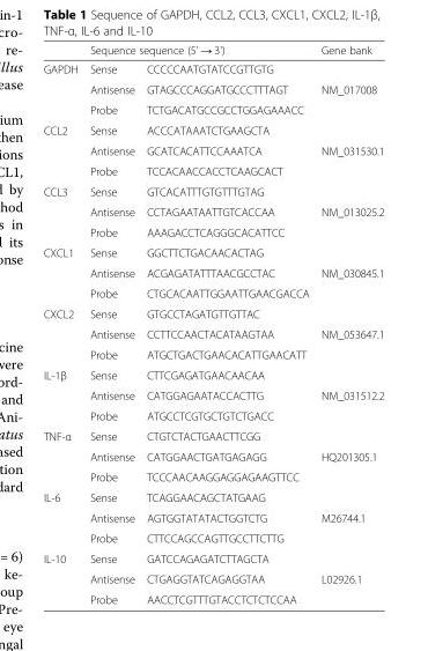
<table><thead><tr><td rowspan="2">GAPDH</td><td colspan="2">Sequence sequence (5&#x27; → 3&#x27;)</td><td rowspan="2">Gene bank</td></tr><tr><td>Sense</td><td>CCCCCAATGTATCCGTTGTG</td></tr></thead><tbody><tr><td></td><td>Antisense</td><td>GTAGCCCAGGATGCCCTTTAGT</td><td>NM_017008</td></tr><tr><td></td><td>Probe</td><td>TCTGACATGCCGCCTGGAGAAACC</td><td></td></tr><tr><td rowspan="3">CCL2</td><td>Sense</td><td>ACCCATAAATCTGAAGCTA</td><td></td></tr><tr><td>Antisense</td><td>GCATCACATTCCAAATCA</td><td>NM_031530.1</td></tr><tr><td>Probe</td><td>TCCACAACCACCTCAAGCACT</td><td></td></tr><tr><td rowspan="3">CCL3</td><td>Sense</td><td>GTCACATTTGTGTTTGTAG</td><td></td></tr><tr><td>Antisense</td><td>CCTAGAATAATTGTCACCAA</td><td>NM_013025.2</td></tr><tr><td>Probe</td><td>AAAGACCTCAGGGCACATTCC</td><td></td></tr><tr><td rowspan="3">CXCL1</td><td>Sense</td><td>GGCTTCTGACAACACTAG</td><td></td></tr><tr><td>Antisense</td><td>ACGAGATATTTAACGCCTAC</td><td>NM_030845.1</td></tr><tr><td>Probe</td><td>CTGCACAATTGGAATTGAACGACCA</td><td></td></tr><tr><td rowspan="3">CXCL2</td><td>Sense</td><td>GTGCCTAGATGTTGTTAC</td><td></td></tr><tr><td>Antisense</td><td>CCTTCCAACTACATAAGTAA</td><td>NM_053647.1</td></tr><tr><td>Probe</td><td>ATGCTGACTGAACACATTGAACATT</td><td></td></tr><tr><td rowspan="3">IL-1β</td><td>Sense</td><td>CTTCGAGATGAACAACAA</td><td></td></tr><tr><td>Antisense</td><td>CATGGAGAATACCACTTG</td><td>NM_031512.2</td></tr><tr><td>Probe</td><td>ATGCCTCGTGCTGTCTGACC</td><td></td></tr><tr><td rowspan="3">TNF-α</td><td>Sense</td><td>CTGTCTACTGAACTTCGG</td><td></td></tr><tr><td>Antisense</td><td>CATGGAACTGATGAGAGG</td><td>HQ201305.1</td></tr><tr><td>Probe</td><td>TCCCAACAAGGAGGAGAAGTTCC</td><td></td></tr><tr><td rowspan="3">IL-6</td><td>Sense</td><td>TCAGGAACAGCTATGAAG</td><td></td></tr><tr><td>Antisense</td><td>AGTGGTATATACTGGTCTG</td><td>M26744.1</td></tr><tr><td>Probe</td><td>CTTCCAGCCAGTTGCCTTCTTG</td><td></td></tr><tr><td rowspan="3">IL-10</td><td>Sense</td><td>GATCCAGAGATCTTAGCTA</td><td></td></tr><tr><td>Antisense</td><td>CTGAGGTATCAGAGGTAA</td><td>L02926.1</td></tr><tr><td>Probe</td><td>AACCTCGTTTGTACCTCTCTCCAA</td><td></td></tr></tbody></table>